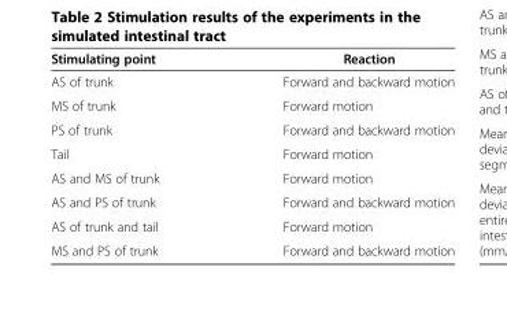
<table><thead><tr><td>Stimulating point</td><td>Reaction</td></tr></thead><tbody><tr><td>AS of trunk</td><td>Forward and backward motion</td></tr><tr><td>MS of trunk</td><td>Forward motion</td></tr><tr><td>PS of trunk</td><td>Forward and backward motion</td></tr><tr><td>Tail</td><td>Forward motion</td></tr><tr><td>AS and MS of trunk</td><td>Forward motion</td></tr><tr><td>AS and PS of trunk</td><td>Forward and backward motion</td></tr><tr><td>AS of trunk and tail</td><td>Forward motion</td></tr><tr><td>MS and PS of trunk</td><td>Forward and backward motion</td></tr></tbody></table>